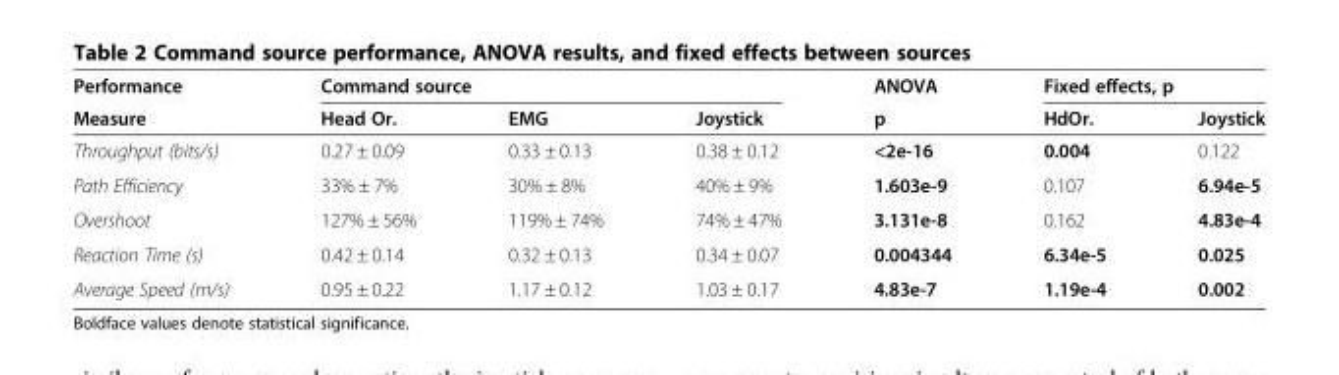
<table><thead><tr><td rowspan="2">Performance Measure</td><td colspan="3">Command source</td><td rowspan="2">ANOVA p</td><td colspan="2">Fixed effects, p</td></tr><tr><td>Head Or.</td><td>EMG</td><td>Joystick</td><td>HdOr.</td><td>Joystick</td></tr></thead><tbody><tr><td>Throughput (bits/s)</td><td>0.27 ± 0.09</td><td>0.33 ± 0.13</td><td>0.38 ± 0.12</td><td>&lt;2e-16</td><td>0.004</td><td>0.122</td></tr><tr><td>Path Efficiency</td><td>33% ± 7%</td><td>30% ± 8%</td><td>40% ± 9%</td><td>1.603e-9</td><td>0.107</td><td>6.94e-5</td></tr><tr><td>Overshoot</td><td>127% ± 56%</td><td>119% ± 74%</td><td>74% ± 47%</td><td>3.131e-8</td><td>0.162</td><td>4.83e-4</td></tr><tr><td>Reaction Time (s)</td><td>0.42 ± 0.14</td><td>0.32 ± 0.13</td><td>0.34 ± 0.07</td><td>0.004344</td><td>6.34e-5</td><td>0.025</td></tr><tr><td>Average Speed (m/s)</td><td>0.95 ± 0.22</td><td>1.17 ± 0.12</td><td>1.03 ± 0.17</td><td>4.83e-7</td><td>1.19e-4</td><td>0.002</td></tr></tbody></table>